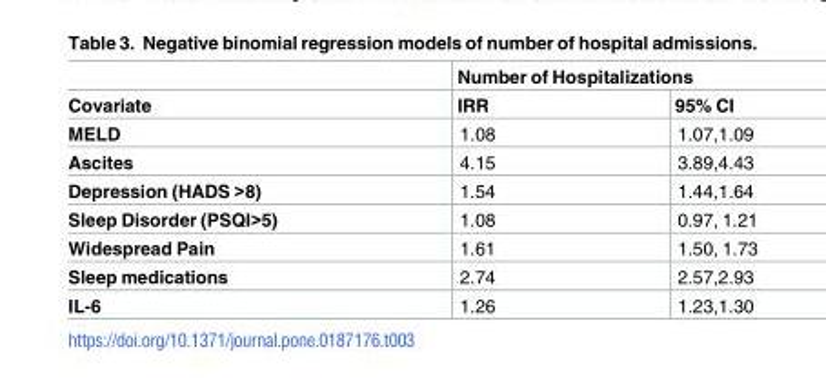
<table><thead><tr><td rowspan="2">Covariate</td><td colspan="2">Number of Hospitalizations</td></tr><tr><td>IRR</td><td>95% CI</td></tr></thead><tbody><tr><td>MELD</td><td>1.08</td><td>1.07,1.09</td></tr><tr><td>Ascites</td><td>4.15</td><td>3.89,4.43</td></tr><tr><td>Depression (HADS &gt;8)</td><td>1.54</td><td>1.44,1.64</td></tr><tr><td>Sleep Disorder (PSQI&gt;5)</td><td>1.08</td><td>0.97, 1.21</td></tr><tr><td>Widespread Pain</td><td>1.61</td><td>1.50, 1.73</td></tr><tr><td>Sleep medications</td><td>2.74</td><td>2.57,2.93</td></tr><tr><td>IL-6</td><td>1.26</td><td>1.23,1.30</td></tr></tbody></table>